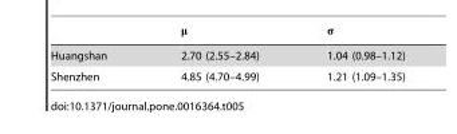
<table><tbody><tr><td>Huangshan</td><td>2.70 (2.55–2.84)</td><td>1.04 (0.98–1.12)</td></tr><tr><td>Shenzhen</td><td>4.85 (4.70–4.99)</td><td>1.21 (1.09–1.35)</td></tr></tbody></table>